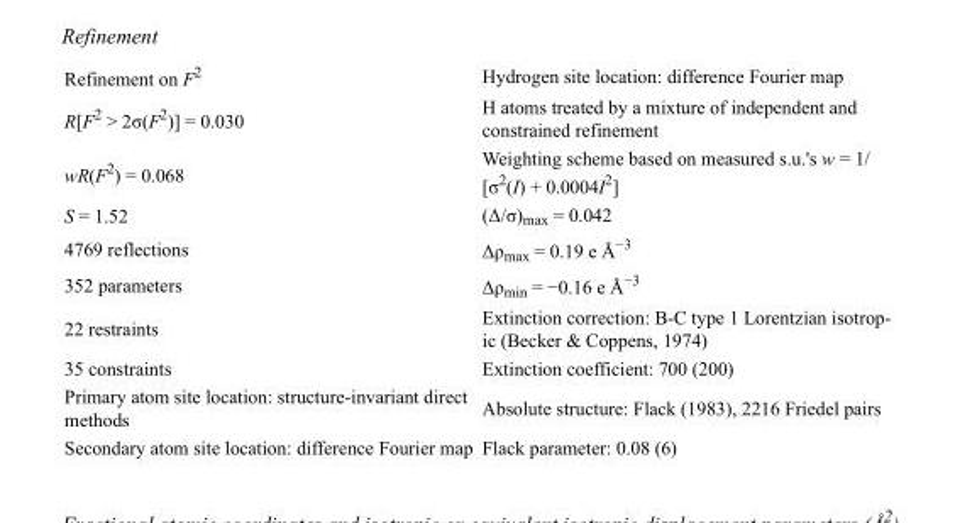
<table><tbody><tr><td>Refinement on F<sup>2</sup></td><td>Hydrogen site location: difference Fourier map</td></tr><tr><td>R[F<sup>2</sup> &gt; 2σ(F<sup>2</sup>)] = 0.030</td><td>H atoms treated by a mixture of independent and constrained refinement</td></tr><tr><td>wR(F<sup>2</sup>) = 0.068</td><td>Weighting scheme based on measured s.u.&#x27;s w = 1/ [σ<sup>2</sup>(I) + 0.0004I<sup>2</sup>]</td></tr><tr><td>S = 1.52</td><td>(Δ/σ)<sub>max</sub> = 0.042</td></tr><tr><td>4769 reflections</td><td>Δρ<sub>max</sub> = 0.19 e Å<sup>−3</sup></td></tr><tr><td>352 parameters</td><td>Δρ<sub>min</sub> = −0.16 e Å<sup>−3</sup></td></tr><tr><td>22 restraints</td><td>Extinction correction: B-C type 1 Lorentzian isotrop- ic (Becker &amp; Coppens, 1974)</td></tr><tr><td>35 constraints</td><td>Extinction coefficient: 700 (200)</td></tr><tr><td>Primary atom site location: structure-invariant direct methods</td><td>Absolute structure: Flack (1983), 2216 Friedel pairs</td></tr><tr><td>Secondary atom site location: difference Fourier map</td><td>Flack parameter: 0.08 (6)</td></tr></tbody></table>